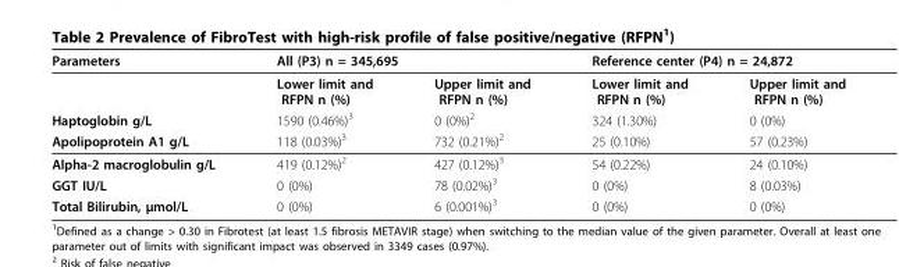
<table><thead><tr><td rowspan="2">Parameters</td><td colspan="2">All (P3) n = 345,695</td><td colspan="2">Reference center (P4) n = 24,872</td></tr><tr><td>Lower limit and RFPN n (%)</td><td>Upper limit and RFPN n (%)</td><td>Lower limit and RFPN n (%)</td><td>Upper limit and RFPN n (%)</td></tr></thead><tbody><tr><td>Haptoglobin g/L</td><td>1590 (0.46%)<sup>3</sup></td><td>0 (0%)<sup>2</sup></td><td>324 (1.30%)</td><td>0 (0%)</td></tr><tr><td>Apolipoprotein A1 g/L</td><td>118 (0.03%)<sup>3</sup></td><td>732 (0.21%)<sup>2</sup></td><td>25 (0.10%)</td><td>57 (0.23%)</td></tr><tr><td>Alpha-2 macroglobulin g/L</td><td>419 (0.12%)<sup>2</sup></td><td>427 (0.12%)<sup>3</sup></td><td>54 (0.22%)</td><td>24 (0.10%)</td></tr><tr><td>GGT IU/L</td><td>0 (0%)</td><td>78 (0.02%)<sup>3</sup></td><td>0 (0%)</td><td>8 (0.03%)</td></tr><tr><td>Total Bilirubin, μmol/L</td><td>0 (0%)</td><td>6 (0.001%)<sup>3</sup></td><td>0 (0%)</td><td>0 (0%)</td></tr></tbody></table>